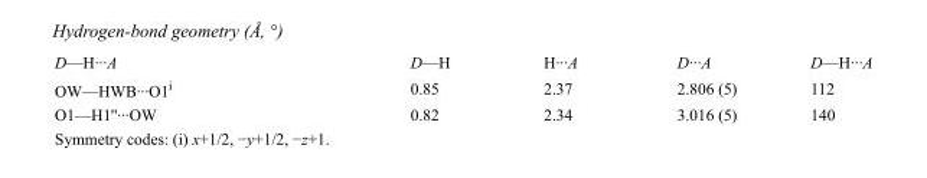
<table><tbody><tr><td>D—H···A</td><td>D—H</td><td>H···A</td><td>D···A</td><td>D—H···A</td></tr><tr><td>OW—HWB···O1<sup>i</sup></td><td>0.85</td><td>2.37</td><td>2.806 (5)</td><td>112</td></tr><tr><td>O1—H1&#x27;&#x27;···OW</td><td>0.82</td><td>2.34</td><td>3.016 (5)</td><td>140</td></tr></tbody></table>